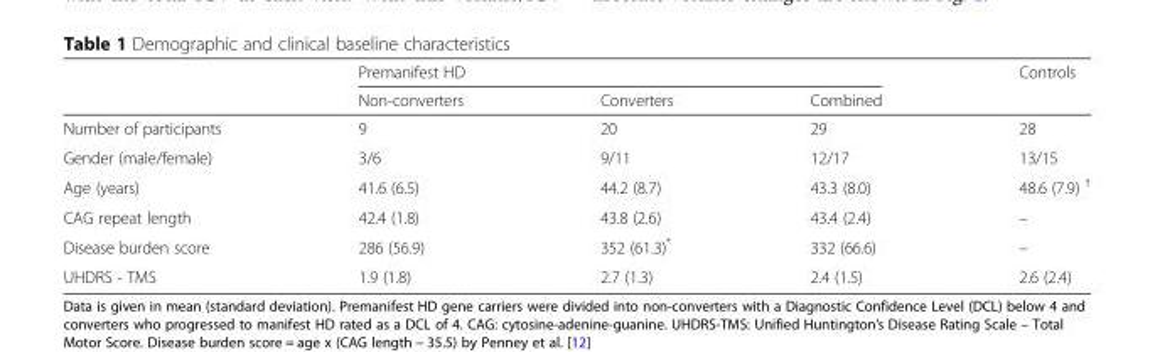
<table><thead><tr><td rowspan="2"></td><td colspan="3">Premanifest HD</td><td rowspan="2">Controls</td></tr><tr><td>Non-converters</td><td>Converters</td><td>Combined</td></tr></thead><tbody><tr><td>Number of participants</td><td>9</td><td>20</td><td>29</td><td>28</td></tr><tr><td>Gender (male/female)</td><td>3/6</td><td>9/11</td><td>12/17</td><td>13/15</td></tr><tr><td>Age (years)</td><td>41.6 (6.5)</td><td>44.2 (8.7)</td><td>43.3 (8.0)</td><td>48.6 (7.9) <sup>†</sup></td></tr><tr><td>CAG repeat length</td><td>42.4 (1.8)</td><td>43.8 (2.6)</td><td>43.4 (2.4)</td><td>–</td></tr><tr><td>Disease burden score</td><td>286 (56.9)</td><td>352 (61.3)*</td><td>332 (66.6)</td><td>–</td></tr><tr><td>UHDRS - TMS</td><td>1.9 (1.8)</td><td>2.7 (1.3)</td><td>2.4 (1.5)</td><td>2.6 (2.4)</td></tr></tbody></table>